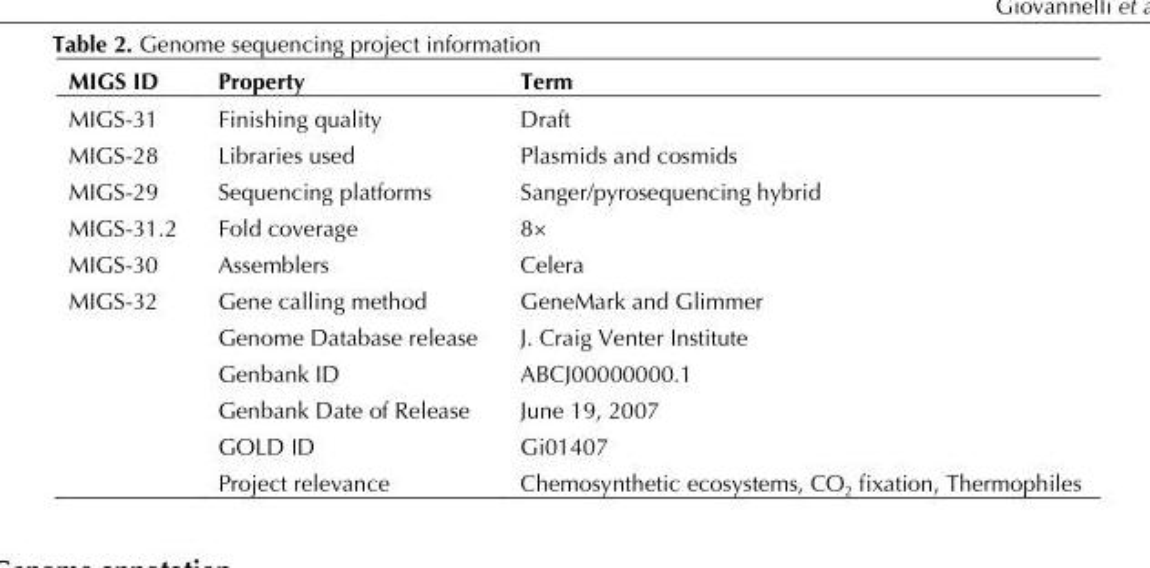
<table><thead><tr><td>MIGS ID</td><td>Property</td><td>Term</td></tr></thead><tbody><tr><td>MIGS-31</td><td>Finishing quality</td><td>Draft</td></tr><tr><td>MIGS-28</td><td>Libraries used</td><td>Plasmids and cosmids</td></tr><tr><td>MIGS-29</td><td>Sequencing platforms</td><td>Sanger/pyrosequencing hybrid</td></tr><tr><td>MIGS-31.2</td><td>Fold coverage</td><td>8×</td></tr><tr><td>MIGS-30</td><td>Assemblers</td><td>Celera</td></tr><tr><td rowspan="6">MIGS-32</td><td>Gene calling method</td><td>GeneMark and Glimmer</td></tr><tr><td>Genome Database release</td><td>J. Craig Venter Institute</td></tr><tr><td>Genbank ID</td><td>ABCJ00000000.1</td></tr><tr><td>Genbank Date of Release</td><td>June 19, 2007</td></tr><tr><td>GOLD ID</td><td>Gi01407</td></tr><tr><td>Project relevance</td><td>Chemosynthetic ecosystems, CO<sub>2</sub> fixation, Thermophiles</td></tr></tbody></table>